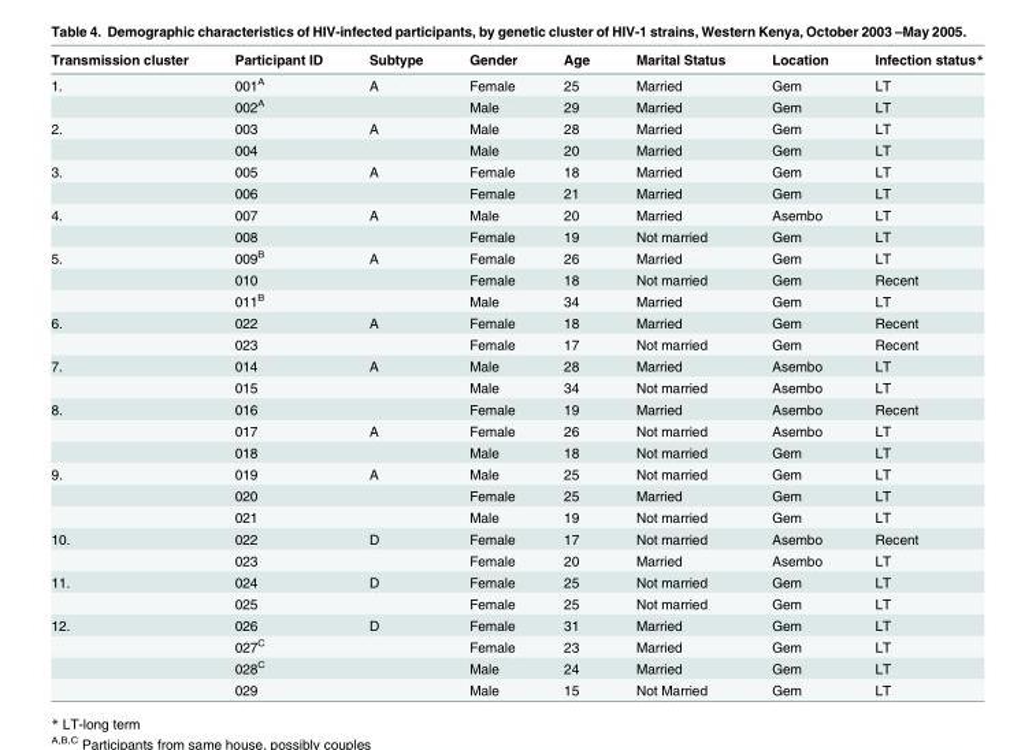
<table><thead><tr><td>Transmission cluster</td><td>Participant ID</td><td>Subtype</td><td>Gender</td><td>Age</td><td>Marital Status</td><td>Location</td><td>Infection status*</td></tr></thead><tbody><tr><td rowspan="2">1.</td><td>001<sup>A</sup></td><td>A</td><td>Female</td><td>25</td><td>Married</td><td>Gem</td><td>LT</td></tr><tr><td>002<sup>A</sup></td><td></td><td>Male</td><td>29</td><td>Married</td><td>Gem</td><td>LT</td></tr><tr><td rowspan="2">2.</td><td>003</td><td>A</td><td>Male</td><td>28</td><td>Married</td><td>Gem</td><td>LT</td></tr><tr><td>004</td><td></td><td>Male</td><td>20</td><td>Married</td><td>Gem</td><td>LT</td></tr><tr><td rowspan="2">3.</td><td>005</td><td>A</td><td>Female</td><td>18</td><td>Married</td><td>Gem</td><td>LT</td></tr><tr><td>006</td><td></td><td>Female</td><td>21</td><td>Married</td><td>Gem</td><td>LT</td></tr><tr><td rowspan="2">4.</td><td>007</td><td>A</td><td>Male</td><td>20</td><td>Married</td><td>Asembo</td><td>LT</td></tr><tr><td>008</td><td></td><td>Female</td><td>19</td><td>Not married</td><td>Gem</td><td>LT</td></tr><tr><td rowspan="3">5.</td><td>009<sup>B</sup></td><td>A</td><td>Female</td><td>26</td><td>Married</td><td>Gem</td><td>LT</td></tr><tr><td>010</td><td></td><td>Female</td><td>18</td><td>Not married</td><td>Gem</td><td>Recent</td></tr><tr><td>011<sup>B</sup></td><td></td><td>Male</td><td>34</td><td>Married</td><td>Gem</td><td>LT</td></tr><tr><td rowspan="2">6.</td><td>022</td><td>A</td><td>Female</td><td>18</td><td>Married</td><td>Gem</td><td>Recent</td></tr><tr><td>023</td><td></td><td>Female</td><td>17</td><td>Not married</td><td>Gem</td><td>Recent</td></tr><tr><td rowspan="2">7.</td><td>014</td><td>A</td><td>Male</td><td>28</td><td>Married</td><td>Asembo</td><td>LT</td></tr><tr><td>015</td><td></td><td>Male</td><td>34</td><td>Not married</td><td>Asembo</td><td>LT</td></tr><tr><td rowspan="3">8.</td><td>016</td><td></td><td>Female</td><td>19</td><td>Married</td><td>Asembo</td><td>Recent</td></tr><tr><td>017</td><td>A</td><td>Female</td><td>26</td><td>Not married</td><td>Asembo</td><td>LT</td></tr><tr><td>018</td><td></td><td>Male</td><td>18</td><td>Not married</td><td>Gem</td><td>LT</td></tr><tr><td rowspan="3">9.</td><td>019</td><td>A</td><td>Male</td><td>25</td><td>Not married</td><td>Gem</td><td>LT</td></tr><tr><td>020</td><td></td><td>Female</td><td>25</td><td>Married</td><td>Gem</td><td>LT</td></tr><tr><td>021</td><td></td><td>Male</td><td>19</td><td>Not married</td><td>Gem</td><td>LT</td></tr><tr><td rowspan="2">10.</td><td>022</td><td>D</td><td>Female</td><td>17</td><td>Not married</td><td>Asembo</td><td>Recent</td></tr><tr><td>023</td><td></td><td>Female</td><td>20</td><td>Married</td><td>Asembo</td><td>LT</td></tr><tr><td rowspan="2">11.</td><td>024</td><td>D</td><td>Female</td><td>25</td><td>Not married</td><td>Gem</td><td>LT</td></tr><tr><td>025</td><td></td><td>Female</td><td>25</td><td>Not married</td><td>Gem</td><td>LT</td></tr><tr><td rowspan="4">12.</td><td>026</td><td>D</td><td>Female</td><td>31</td><td>Married</td><td>Gem</td><td>LT</td></tr><tr><td>027<sup>C</sup></td><td></td><td>Female</td><td>23</td><td>Married</td><td>Gem</td><td>LT</td></tr><tr><td>028<sup>C</sup></td><td></td><td>Male</td><td>24</td><td>Married</td><td>Gem</td><td>LT</td></tr><tr><td>029</td><td></td><td>Male</td><td>15</td><td>Not Married</td><td>Gem</td><td>LT</td></tr></tbody></table>